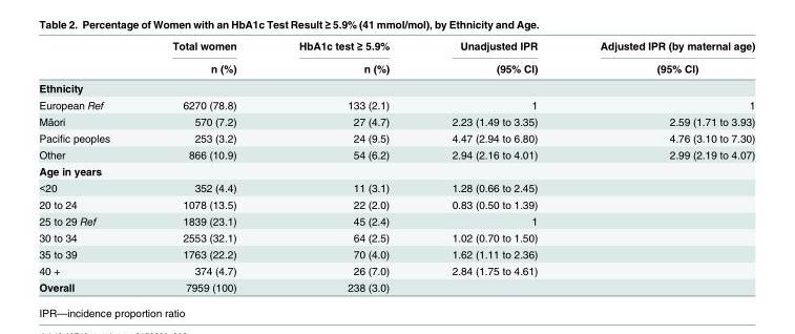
<table><thead><tr><td rowspan="2"></td><td rowspan="2">Total women n (%)</td><td rowspan="2">HbA1c test ≥ 5.9% n (%)</td><td rowspan="2">Unadjusted IPR (95% CI)</td><td rowspan="2">Adjusted IPR (by maternal age) (95% CI)</td></tr><tr></tr></thead><tbody><tr><td colspan="5">Ethnicity</td></tr><tr><td>European Ref</td><td>6270 (78.8)</td><td>133 (2.1)</td><td>1</td><td>1</td></tr><tr><td>Māori</td><td>570 (7.2)</td><td>27 (4.7)</td><td>2.23 (1.49 to 3.35)</td><td>2.59 (1.71 to 3.93)</td></tr><tr><td>Pacific peoples</td><td>253 (3.2)</td><td>24 (9.5)</td><td>4.47 (2.94 to 6.80)</td><td>4.76 (3.10 to 7.30)</td></tr><tr><td>Other</td><td>866 (10.9)</td><td>54 (6.2)</td><td>2.94 (2.16 to 4.01)</td><td>2.99 (2.19 to 4.07)</td></tr><tr><td colspan="5">Age in years</td></tr><tr><td>&lt;20</td><td>352 (4.4)</td><td>11 (3.1)</td><td>1.28 (0.66 to 2.45)</td><td></td></tr><tr><td>20 to 24</td><td>1078 (13.5)</td><td>22 (2.0)</td><td>0.83 (0.50 to 1.39)</td><td></td></tr><tr><td>25 to 29 Ref</td><td>1839 (23.1)</td><td>45 (2.4)</td><td>1</td><td></td></tr><tr><td>30 to 34</td><td>2553 (32.1)</td><td>64 (2.5)</td><td>1.02 (0.70 to 1.50)</td><td></td></tr><tr><td>35 to 39</td><td>1763 (22.2)</td><td>70 (4.0)</td><td>1.62 (1.11 to 2.36)</td><td></td></tr><tr><td>40 +</td><td>374 (4.7)</td><td>26 (7.0)</td><td>2.84 (1.75 to 4.61)</td><td></td></tr><tr><td>Overall</td><td>7959 (100)</td><td>238 (3.0)</td><td></td><td></td></tr></tbody></table>